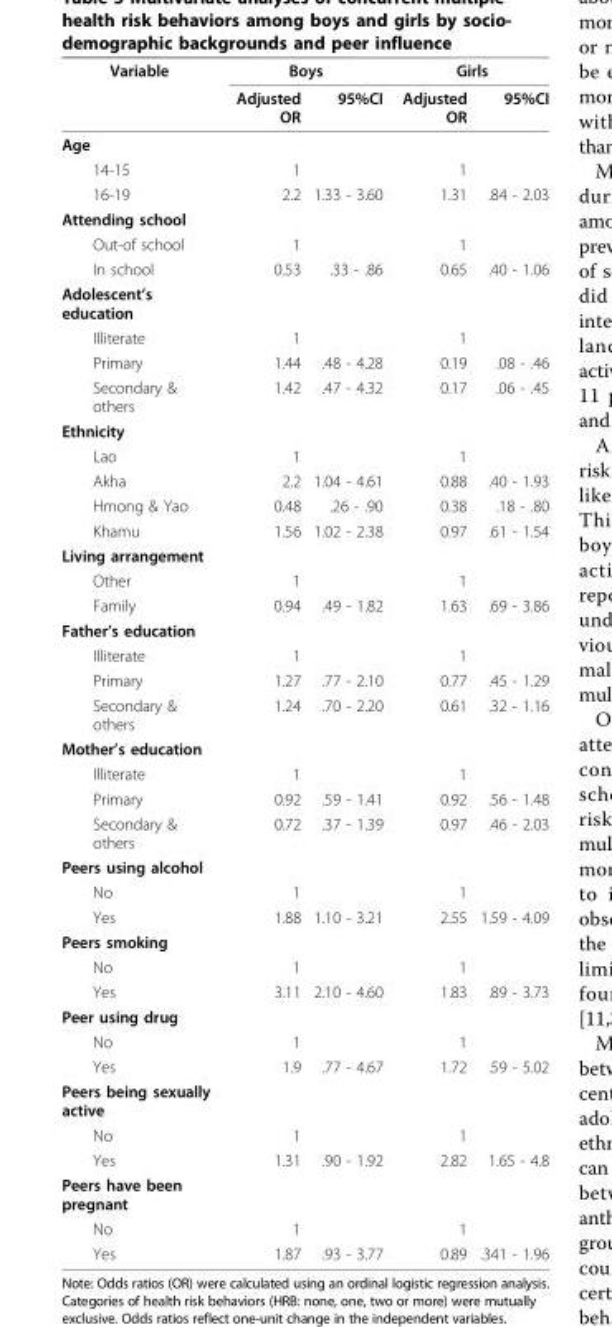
<table><thead><tr><td rowspan="2">Variable</td><td colspan="2">Boys</td><td colspan="2">Girls</td></tr><tr><td>Adjusted OR</td><td>95%CI</td><td>Adjusted OR</td><td>95%CI</td></tr></thead><tbody><tr><td colspan="5">Age</td></tr><tr><td>14-15</td><td>1</td><td></td><td>1</td><td></td></tr><tr><td>16-19</td><td>2.2</td><td>1.33 - 3.60</td><td>1.31</td><td>.84 - 2.03</td></tr><tr><td colspan="5">Attending school</td></tr><tr><td>Out-of school</td><td>1</td><td></td><td>1</td><td></td></tr><tr><td>In school</td><td>0.53</td><td>.33 - .86</td><td>0.65</td><td>.40 - 1.06</td></tr><tr><td colspan="5">Adolescent’s education</td></tr><tr><td>Illiterate</td><td>1</td><td></td><td>1</td><td></td></tr><tr><td>Primary</td><td>1.44</td><td>.48 - 4.28</td><td>0.19</td><td>.08 - .46</td></tr><tr><td>Secondary &amp; others</td><td>1.42</td><td>.47 - 4.32</td><td>0.17</td><td>.06 - .45</td></tr><tr><td colspan="5">Ethnicity</td></tr><tr><td>Lao</td><td>1</td><td></td><td>1</td><td></td></tr><tr><td>Akha</td><td>2.2</td><td>1.04 - 4.61</td><td>0.88</td><td>.40 - 1.93</td></tr><tr><td>Hmong &amp; Yao</td><td>0.48</td><td>.26 - .90</td><td>0.38</td><td>.18 - .80</td></tr><tr><td>Khamu</td><td>1.56</td><td>1.02 - 2.38</td><td>0.97</td><td>.61 - 1.54</td></tr><tr><td colspan="5">Living arrangement</td></tr><tr><td>Other</td><td>1</td><td></td><td>1</td><td></td></tr><tr><td>Family</td><td>0.94</td><td>.49 - 1.82</td><td>1.63</td><td>.69 - 3.86</td></tr><tr><td colspan="5">Father’s education</td></tr><tr><td>Illiterate</td><td>1</td><td></td><td>1</td><td></td></tr><tr><td>Primary</td><td>1.27</td><td>.77 - 2.10</td><td>0.77</td><td>.45 - 1.29</td></tr><tr><td>Secondary &amp; others</td><td>1.24</td><td>.70 - 2.20</td><td>0.61</td><td>.32 - 1.16</td></tr><tr><td colspan="5">Mother’s education</td></tr><tr><td>Illiterate</td><td>1</td><td></td><td>1</td><td></td></tr><tr><td>Primary</td><td>0.92</td><td>.59 - 1.41</td><td>0.92</td><td>.56 - 1.48</td></tr><tr><td>Secondary &amp; others</td><td>0.72</td><td>.37 - 1.39</td><td>0.97</td><td>.46 - 2.03</td></tr><tr><td colspan="5">Peers using alcohol</td></tr><tr><td>No</td><td>1</td><td></td><td>1</td><td></td></tr><tr><td>Yes</td><td>1.88</td><td>1.10 - 3.21</td><td>2.55</td><td>1.59 - 4.09</td></tr><tr><td colspan="5">Peers smoking</td></tr><tr><td>No</td><td>1</td><td></td><td>1</td><td></td></tr><tr><td>Yes</td><td>3.11</td><td>2.10 - 4.60</td><td>1.83</td><td>.89 - 3.73</td></tr><tr><td colspan="5">Peer using drug</td></tr><tr><td>No</td><td>1</td><td></td><td>1</td><td></td></tr><tr><td>Yes</td><td>1.9</td><td>.77 - 4.67</td><td>1.72</td><td>.59 - 5.02</td></tr><tr><td colspan="5">Peers being sexually active</td></tr><tr><td>No</td><td>1</td><td></td><td>1</td><td></td></tr><tr><td>Yes</td><td>1.31</td><td>.90 - 1.92</td><td>2.82</td><td>1.65 - 4.8</td></tr><tr><td colspan="5">Peers have been pregnant</td></tr><tr><td>No</td><td>1</td><td></td><td>1</td><td></td></tr><tr><td>Yes</td><td>1.87</td><td>.93 - 3.77</td><td>0.89</td><td>.341 - 1.96</td></tr></tbody></table>